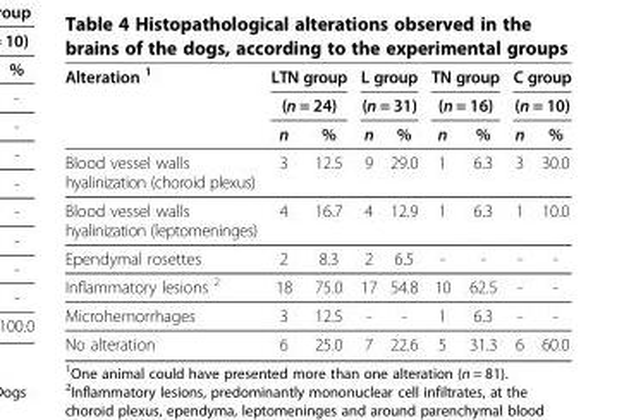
<table><thead><tr><td rowspan="3">Alteration <sup>1</sup></td><td rowspan="2" colspan="2">LTN group (n = 24)</td><td rowspan="2" colspan="2">L group (n = 31)</td><td rowspan="2" colspan="2">TN group (n = 16)</td><td rowspan="2" colspan="2">C group (n = 10)</td></tr><tr></tr><tr><td>n</td><td>%</td><td>n</td><td>%</td><td>n</td><td>%</td><td>n</td><td>%</td></tr></thead><tbody><tr><td>Blood vessel walls hyalinization (choroid plexus)</td><td>3</td><td>12.5</td><td>9</td><td>29.0</td><td>1</td><td>6.3</td><td>3</td><td>30.0</td></tr><tr><td>Blood vessel walls hyalinization (leptomeninges)</td><td>4</td><td>16.7</td><td>4</td><td>12.9</td><td>1</td><td>6.3</td><td>1</td><td>10.0</td></tr><tr><td>Ependymal rosettes</td><td>2</td><td>8.3</td><td>2</td><td>6.5</td><td>-</td><td>-</td><td>-</td><td>-</td></tr><tr><td>Inflammatory lesions <sup>2</sup></td><td>18</td><td>75.0</td><td>17</td><td>54.8</td><td>10</td><td>62.5</td><td>-</td><td>-</td></tr><tr><td>Microhemorrhages</td><td>3</td><td>12.5</td><td>-</td><td>-</td><td>1</td><td>6.3</td><td>-</td><td>-</td></tr><tr><td>No alteration</td><td>6</td><td>25.0</td><td>7</td><td>22.6</td><td>5</td><td>31.3</td><td>6</td><td>60.0</td></tr></tbody></table>